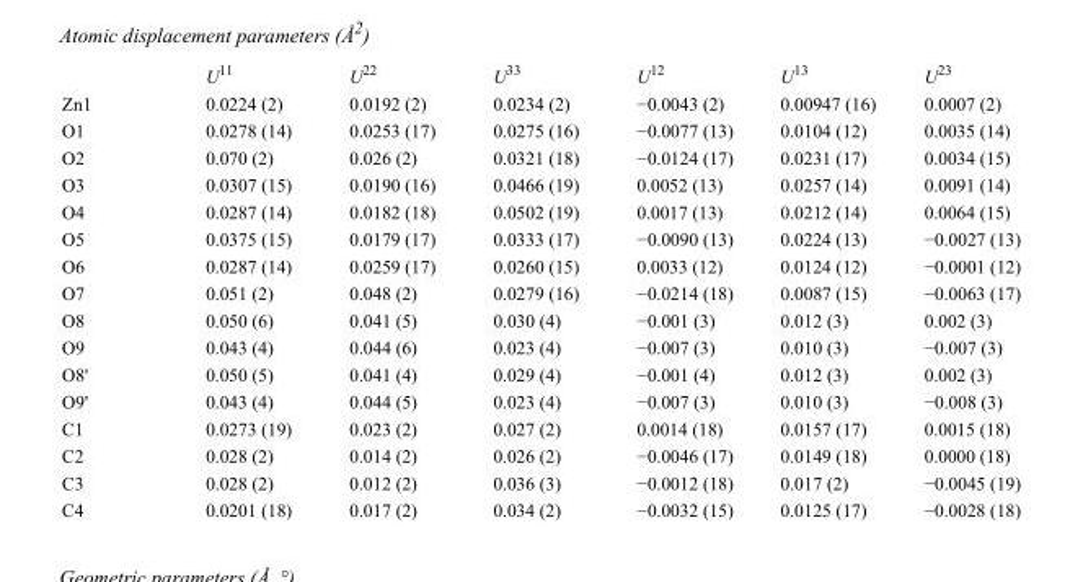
<table><thead><tr><td></td><td>U<sup>11</sup></td><td>U<sup>22</sup></td><td>U<sup>33</sup></td><td>U<sup>12</sup></td><td>U<sup>13</sup></td><td>U<sup>23</sup></td></tr></thead><tbody><tr><td>Zn1</td><td>0.0224 (2)</td><td>0.0192 (2)</td><td>0.0234 (2)</td><td>−0.0043 (2)</td><td>0.00947 (16)</td><td>0.0007 (2)</td></tr><tr><td>O1</td><td>0.0278 (14)</td><td>0.0253 (17)</td><td>0.0275 (16)</td><td>−0.0077 (13)</td><td>0.0104 (12)</td><td>0.0035 (14)</td></tr><tr><td>O2</td><td>0.070 (2)</td><td>0.026 (2)</td><td>0.0321 (18)</td><td>−0.0124 (17)</td><td>0.0231 (17)</td><td>0.0034 (15)</td></tr><tr><td>O3</td><td>0.0307 (15)</td><td>0.0190 (16)</td><td>0.0466 (19)</td><td>0.0052 (13)</td><td>0.0257 (14)</td><td>0.0091 (14)</td></tr><tr><td>O4</td><td>0.0287 (14)</td><td>0.0182 (18)</td><td>0.0502 (19)</td><td>0.0017 (13)</td><td>0.0212 (14)</td><td>0.0064 (15)</td></tr><tr><td>O5</td><td>0.0375 (15)</td><td>0.0179 (17)</td><td>0.0333 (17)</td><td>−0.0090 (13)</td><td>0.0224 (13)</td><td>−0.0027 (13)</td></tr><tr><td>O6</td><td>0.0287 (14)</td><td>0.0259 (17)</td><td>0.0260 (15)</td><td>0.0033 (12)</td><td>0.0124 (12)</td><td>−0.0001 (12)</td></tr><tr><td>O7</td><td>0.051 (2)</td><td>0.048 (2)</td><td>0.0279 (16)</td><td>−0.0214 (18)</td><td>0.0087 (15)</td><td>−0.0063 (17)</td></tr><tr><td>O8</td><td>0.050 (6)</td><td>0.041 (5)</td><td>0.030 (4)</td><td>−0.001 (3)</td><td>0.012 (3)</td><td>0.002 (3)</td></tr><tr><td>O9</td><td>0.043 (4)</td><td>0.044 (6)</td><td>0.023 (4)</td><td>−0.007 (3)</td><td>0.010 (3)</td><td>−0.007 (3)</td></tr><tr><td>O8&#x27;</td><td>0.050 (5)</td><td>0.041 (4)</td><td>0.029 (4)</td><td>−0.001 (4)</td><td>0.012 (3)</td><td>0.002 (3)</td></tr><tr><td>O9&#x27;</td><td>0.043 (4)</td><td>0.044 (5)</td><td>0.023 (4)</td><td>−0.007 (3)</td><td>0.010 (3)</td><td>−0.008 (3)</td></tr><tr><td>C1</td><td>0.0273 (19)</td><td>0.023 (2)</td><td>0.027 (2)</td><td>0.0014 (18)</td><td>0.0157 (17)</td><td>0.0015 (18)</td></tr><tr><td>C2</td><td>0.028 (2)</td><td>0.014 (2)</td><td>0.026 (2)</td><td>−0.0046 (17)</td><td>0.0149 (18)</td><td>0.0000 (18)</td></tr><tr><td>C3</td><td>0.028 (2)</td><td>0.012 (2)</td><td>0.036 (3)</td><td>−0.0012 (18)</td><td>0.017 (2)</td><td>−0.0045 (19)</td></tr><tr><td>C4</td><td>0.0201 (18)</td><td>0.017 (2)</td><td>0.034 (2)</td><td>−0.0032 (15)</td><td>0.0125 (17)</td><td>−0.0028 (18)</td></tr></tbody></table>